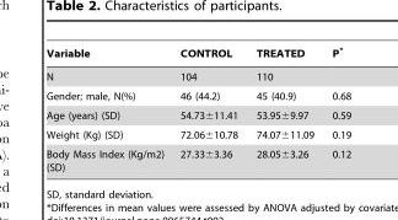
<table><thead><tr><td>Variable</td><td>CONTROL</td><td>TREATED</td><td>P*</td></tr></thead><tbody><tr><td>N</td><td>104</td><td>110</td><td></td></tr><tr><td>Gender; male, N(%)</td><td>46 (44.2)</td><td>45 (40.9)</td><td>0.68</td></tr><tr><td>Age (years) (SD)</td><td>54.73±11.41</td><td>53.95±9.97</td><td>0.59</td></tr><tr><td>Weight (Kg) (SD)</td><td>72.06±10.78</td><td>74.07±11.09</td><td>0.19</td></tr><tr><td>Body Mass Index (Kg/m2) (SD)</td><td>27.33±3.36</td><td>28.05±3.26</td><td>0.12</td></tr></tbody></table>